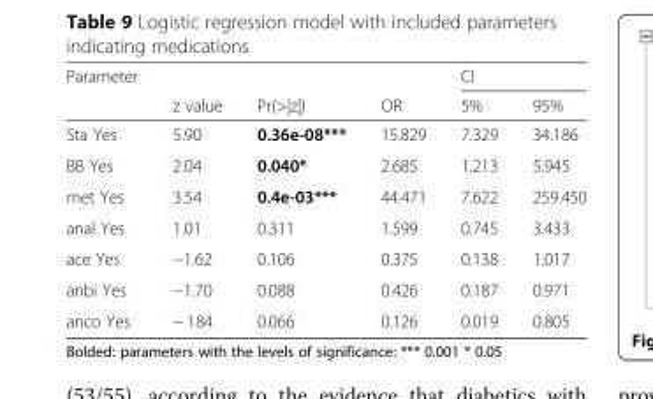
<table><thead><tr><td rowspan="2">Parameter</td><td rowspan="2">z value</td><td rowspan="2">Pr(&gt;|z|)</td><td rowspan="2">OR</td><td colspan="2">CI</td></tr><tr><td>5%</td><td>95%</td></tr></thead><tbody><tr><td>Sta Yes</td><td>5.90</td><td>0.36e-08***</td><td>15.829</td><td>7.329</td><td>34.186</td></tr><tr><td>BB Yes</td><td>2.04</td><td>0.040*</td><td>2.685</td><td>1.213</td><td>5.945</td></tr><tr><td>met Yes</td><td>3.54</td><td>0.4e-03***</td><td>44.471</td><td>7.622</td><td>259.450</td></tr><tr><td>anal Yes</td><td>1.01</td><td>0.311</td><td>1.599</td><td>0.745</td><td>3.433</td></tr><tr><td>ace Yes</td><td>−1.62</td><td>0.106</td><td>0.375</td><td>0.138</td><td>1.017</td></tr><tr><td>anbi Yes</td><td>−1.70</td><td>0.088</td><td>0.426</td><td>0.187</td><td>0.971</td></tr><tr><td>anco Yes</td><td>− 184</td><td>0.066</td><td>0.126</td><td>0.019</td><td>0.805</td></tr></tbody></table>